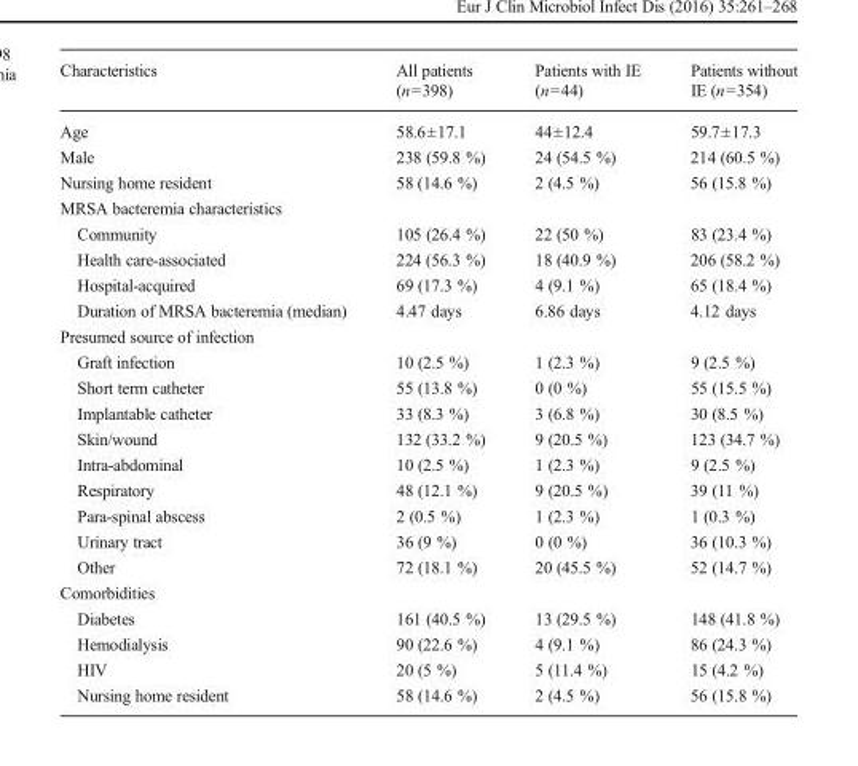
<table><thead><tr><td>Characteristics</td><td>All patients (n=398)</td><td>Patients with IE (n=44)</td><td>Patients without IE (n=354)</td></tr></thead><tbody><tr><td>Age</td><td>58.6±17.1</td><td>44±12.4</td><td>59.7±17.3</td></tr><tr><td>Male</td><td>238 (59.8 %)</td><td>24 (54.5 %)</td><td>214 (60.5 %)</td></tr><tr><td>Nursing home resident</td><td>58 (14.6 %)</td><td>2 (4.5 %)</td><td>56 (15.8 %)</td></tr><tr><td colspan="4">MRSA bacteremia characteristics</td></tr><tr><td>Community</td><td>105 (26.4 %)</td><td>22 (50 %)</td><td>83 (23.4 %)</td></tr><tr><td>Health care-associated</td><td>224 (56.3 %)</td><td>18 (40.9 %)</td><td>206 (58.2 %)</td></tr><tr><td>Hospital-acquired</td><td>69 (17.3 %)</td><td>4 (9.1 %)</td><td>65 (18.4 %)</td></tr><tr><td>Duration of MRSA bacteremia (median)</td><td>4.47 days</td><td>6.86 days</td><td>4.12 days</td></tr><tr><td colspan="4">Presumed source of infection</td></tr><tr><td>Graft infection</td><td>10 (2.5 %)</td><td>1 (2.3 %)</td><td>9 (2.5 %)</td></tr><tr><td>Short term catheter</td><td>55 (13.8 %)</td><td>0 (0 %)</td><td>55 (15.5 %)</td></tr><tr><td>Implantable catheter</td><td>33 (8.3 %)</td><td>3 (6.8 %)</td><td>30 (8.5 %)</td></tr><tr><td>Skin/wound</td><td>132 (33.2 %)</td><td>9 (20.5 %)</td><td>123 (34.7 %)</td></tr><tr><td>Intra-abdominal</td><td>10 (2.5 %)</td><td>1 (2.3 %)</td><td>9 (2.5 %)</td></tr><tr><td>Respiratory</td><td>48 (12.1 %)</td><td>9 (20.5 %)</td><td>39 (11 %)</td></tr><tr><td>Para-spinal abscess</td><td>2 (0.5 %)</td><td>1 (2.3 %)</td><td>1 (0.3 %)</td></tr><tr><td>Urinary tract</td><td>36 (9 %)</td><td>0 (0 %)</td><td>36 (10.3 %)</td></tr><tr><td>Other</td><td>72 (18.1 %)</td><td>20 (45.5 %)</td><td>52 (14.7 %)</td></tr><tr><td colspan="4">Comorbidities</td></tr><tr><td>Diabetes</td><td>161 (40.5 %)</td><td>13 (29.5 %)</td><td>148 (41.8 %)</td></tr><tr><td>Hemodialysis</td><td>90 (22.6 %)</td><td>4 (9.1 %)</td><td>86 (24.3 %)</td></tr><tr><td>HIV</td><td>20 (5 %)</td><td>5 (11.4 %)</td><td>15 (4.2 %)</td></tr><tr><td>Nursing home resident</td><td>58 (14.6 %)</td><td>2 (4.5 %)</td><td>56 (15.8 %)</td></tr></tbody></table>